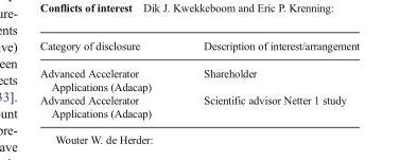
<table><thead><tr><td>Category of disclosure</td><td>Description of interest/arrangement</td></tr></thead><tbody><tr><td>Advanced Accelerator Applications (Adacap)</td><td>Shareholder</td></tr><tr><td>Advanced Accelerator Applications (Adacap)</td><td>Scientific advisor Netter 1 study</td></tr></tbody></table>